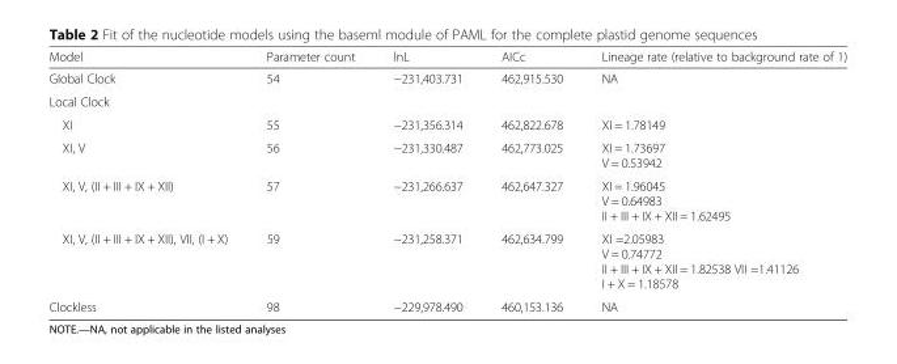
<table><thead><tr><td>Model</td><td>Parameter count</td><td>lnL</td><td>AICc</td><td>Lineage rate (relative to background rate of 1)</td></tr></thead><tbody><tr><td>Global Clock</td><td>54</td><td>−231,403.731</td><td>462,915.530</td><td>NA</td></tr><tr><td colspan="5">Local Clock</td></tr><tr><td>XI</td><td>55</td><td>−231,356.314</td><td>462,822.678</td><td>XI = 1.78149</td></tr><tr><td>XI, V</td><td>56</td><td>−231,330.487</td><td>462,773.025</td><td>XI = 1.73697 V = 0.53942</td></tr><tr><td>XI, V, (II + III + IX + XII)</td><td>57</td><td>−231,266.637</td><td>462,647.327</td><td>XI = 1.96045 V = 0.64983 II + III + IX + XII = 1.62495</td></tr><tr><td>XI, V, (II + III + IX + XII), VII, (I + X)</td><td>59</td><td>−231,258.371</td><td>462,634.799</td><td>XI =2.05983 V = 0.74772 II + III + IX + XII = 1.82538 VII =1.41126 I + X = 1.18578</td></tr><tr><td>Clockless</td><td>98</td><td>−229,978.490</td><td>460,153.136</td><td>NA</td></tr></tbody></table>